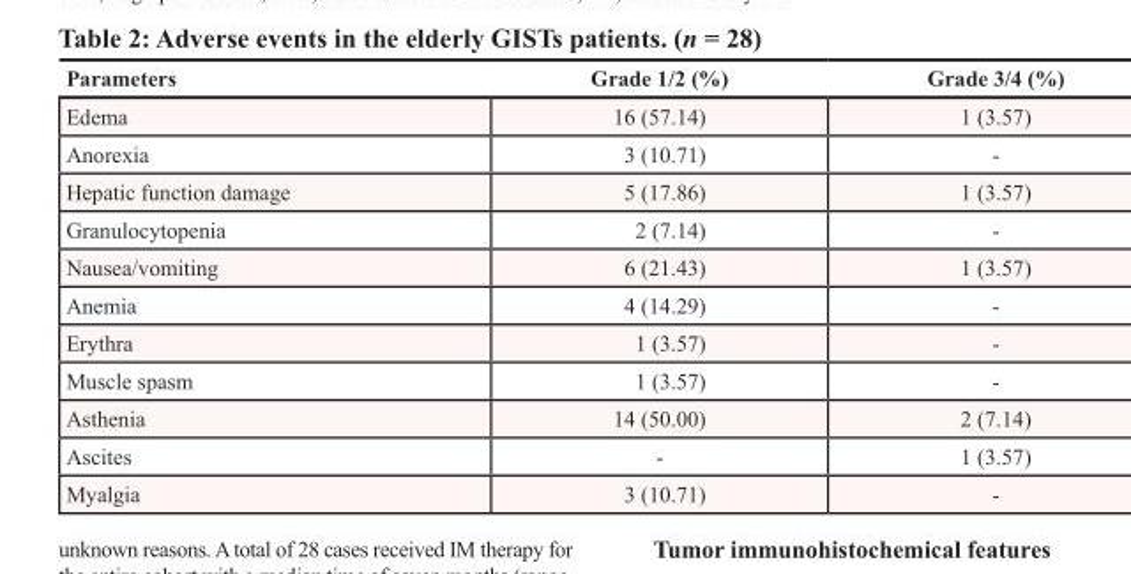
<table><thead><tr><td>Parameters</td><td>Grade 1/2 (%)</td><td>Grade 3/4 (%)</td></tr></thead><tbody><tr><td>Edema</td><td>16 (57.14)</td><td>1 (3.57)</td></tr><tr><td>Anorexia</td><td>3 (10.71)</td><td>-</td></tr><tr><td>Hepatic function damage</td><td>5 (17.86)</td><td>1 (3.57)</td></tr><tr><td>Granulocytopenia</td><td>2 (7.14)</td><td>-</td></tr><tr><td>Nausea/vomiting</td><td>6 (21.43)</td><td>1 (3.57)</td></tr><tr><td>Anemia</td><td>4 (14.29)</td><td>-</td></tr><tr><td>Erythra</td><td>1 (3.57)</td><td>-</td></tr><tr><td>Muscle spasm</td><td>1 (3.57)</td><td>-</td></tr><tr><td>Asthenia</td><td>14 (50.00)</td><td>2 (7.14)</td></tr><tr><td>Ascites</td><td>-</td><td>1 (3.57)</td></tr><tr><td>Myalgia</td><td>3 (10.71)</td><td>-</td></tr></tbody></table>